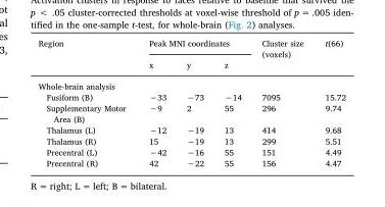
<table><thead><tr><td rowspan="2">Region</td><td colspan="3">Peak MNI coordinates</td><td rowspan="2">Cluster size (voxels)</td><td rowspan="2">t(66)</td></tr><tr><td>x</td><td>y</td><td>z</td></tr></thead><tbody><tr><td colspan="6">Whole-brain analysis</td></tr><tr><td>Fusiform (B)</td><td>−33</td><td>−73</td><td>−14</td><td>7095</td><td>15.72</td></tr><tr><td>Supplementary Motor Area (B)</td><td>−9</td><td>2</td><td>55</td><td>296</td><td>9.74</td></tr><tr><td>Thalamus (L)</td><td>−12</td><td>−19</td><td>13</td><td>414</td><td>9.68</td></tr><tr><td>Thalamus (R)</td><td>15</td><td>−19</td><td>13</td><td>299</td><td>5.51</td></tr><tr><td>Precentral (L)</td><td>−42</td><td>−16</td><td>55</td><td>151</td><td>4.49</td></tr><tr><td>Precentral (R)</td><td>42</td><td>−22</td><td>55</td><td>156</td><td>4.47</td></tr></tbody></table>